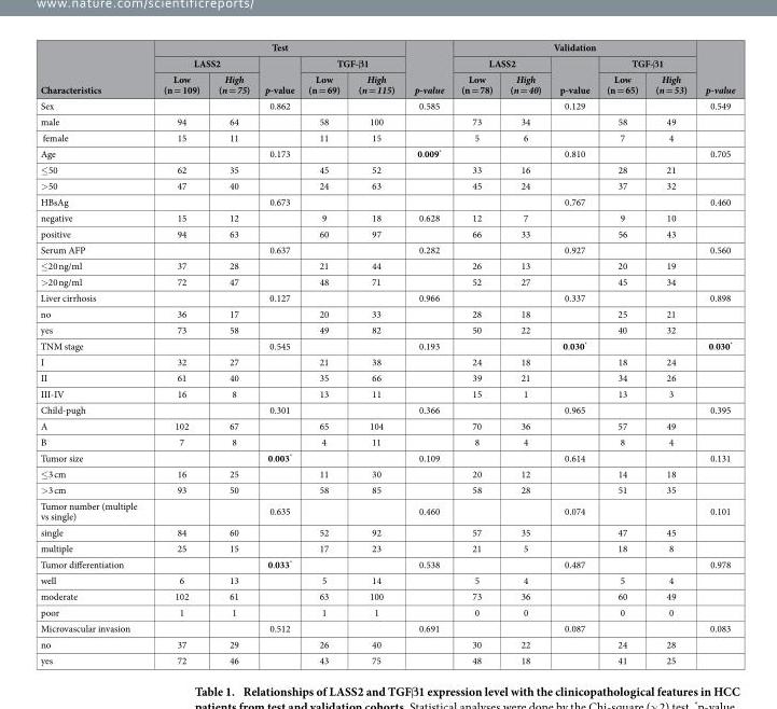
<table><thead><tr><td rowspan="3">Characteristics</td><td colspan="5">Test</td><td rowspan="3">p-value</td><td colspan="5">Validation</td><td rowspan="3">p-value</td></tr><tr><td colspan="2">LASS2</td><td rowspan="2">p-value</td><td colspan="2">TGF-β1</td><td colspan="2">LASS2</td><td rowspan="2">p-value</td><td colspan="2">TGF-β1</td></tr><tr><td>Low (n = 109)</td><td>High (n = 75)</td><td>Low (n = 69)</td><td>High (n = 115)</td><td>Low (n = 78)</td><td>High (n = 40)</td><td>Low (n = 65)</td><td>High (n = 53)</td></tr></thead><tbody><tr><td>Sex</td><td></td><td></td><td>0.862</td><td></td><td></td><td>0.585</td><td></td><td></td><td>0.129</td><td></td><td></td><td>0.549</td></tr><tr><td>male</td><td>94</td><td>64</td><td></td><td>58</td><td>100</td><td></td><td>73</td><td>34</td><td></td><td>58</td><td>49</td><td></td></tr><tr><td>female</td><td>15</td><td>11</td><td></td><td>11</td><td>15</td><td></td><td>5</td><td>6</td><td></td><td>7</td><td>4</td><td></td></tr><tr><td>Age</td><td></td><td></td><td>0.173</td><td></td><td></td><td>0.009*</td><td></td><td></td><td>0.810</td><td></td><td></td><td>0.705</td></tr><tr><td>≤ 50</td><td>62</td><td>35</td><td></td><td>45</td><td>52</td><td></td><td>33</td><td>16</td><td></td><td>28</td><td>21</td><td></td></tr><tr><td>&gt; 50</td><td>47</td><td>40</td><td></td><td>24</td><td>63</td><td></td><td>45</td><td>24</td><td></td><td>37</td><td>32</td><td></td></tr><tr><td>HBsAg</td><td></td><td></td><td>0.673</td><td></td><td></td><td></td><td></td><td></td><td>0.767</td><td></td><td></td><td>0.460</td></tr><tr><td>negative</td><td>15</td><td>12</td><td></td><td>9</td><td>18</td><td>0.628</td><td>12</td><td>7</td><td></td><td>9</td><td>10</td><td></td></tr><tr><td>positive</td><td>94</td><td>63</td><td></td><td>60</td><td>97</td><td></td><td>66</td><td>33</td><td></td><td>56</td><td>43</td><td></td></tr><tr><td>Serum AFP</td><td></td><td></td><td>0.637</td><td></td><td></td><td>0.282</td><td></td><td></td><td>0.927</td><td></td><td></td><td>0.560</td></tr><tr><td>≤ 20 ng/ml</td><td>37</td><td>28</td><td></td><td>21</td><td>44</td><td></td><td>26</td><td>13</td><td></td><td>20</td><td>19</td><td></td></tr><tr><td>&gt; 20 ng/ml</td><td>72</td><td>47</td><td></td><td>48</td><td>71</td><td></td><td>52</td><td>27</td><td></td><td>45</td><td>34</td><td></td></tr><tr><td>Liver cirrhosis</td><td></td><td></td><td>0.127</td><td></td><td></td><td>0.966</td><td></td><td></td><td>0.337</td><td></td><td></td><td>0.898</td></tr><tr><td>no</td><td>36</td><td>17</td><td></td><td>20</td><td>33</td><td></td><td>28</td><td>18</td><td></td><td>25</td><td>21</td><td></td></tr><tr><td>yes</td><td>73</td><td>58</td><td></td><td>49</td><td>82</td><td></td><td>50</td><td>22</td><td></td><td>40</td><td>32</td><td></td></tr><tr><td>TNM stage</td><td></td><td></td><td>0.545</td><td></td><td></td><td>0.193</td><td></td><td></td><td>0.030*</td><td></td><td></td><td>0.030*</td></tr><tr><td>I</td><td>32</td><td>27</td><td></td><td>21</td><td>38</td><td></td><td>24</td><td>18</td><td></td><td>18</td><td>24</td><td></td></tr><tr><td>II</td><td>61</td><td>40</td><td></td><td>35</td><td>66</td><td></td><td>39</td><td>21</td><td></td><td>34</td><td>26</td><td></td></tr><tr><td>III-IV</td><td>16</td><td>8</td><td></td><td>13</td><td>11</td><td></td><td>15</td><td>1</td><td></td><td>13</td><td>3</td><td></td></tr><tr><td>Child-pugh</td><td></td><td></td><td>0.301</td><td></td><td></td><td>0.366</td><td></td><td></td><td>0.965</td><td></td><td></td><td>0.395</td></tr><tr><td>A</td><td>102</td><td>67</td><td></td><td>65</td><td>104</td><td></td><td>70</td><td>36</td><td></td><td>57</td><td>49</td><td></td></tr><tr><td>B</td><td>7</td><td>8</td><td></td><td>4</td><td>11</td><td></td><td>8</td><td>4</td><td></td><td>8</td><td>4</td><td></td></tr><tr><td>Tumor size</td><td></td><td></td><td>0.003*</td><td></td><td></td><td>0.109</td><td></td><td></td><td>0.614</td><td></td><td></td><td>0.131</td></tr><tr><td>≤ 3 cm</td><td>16</td><td>25</td><td></td><td>11</td><td>30</td><td></td><td>20</td><td>12</td><td></td><td>14</td><td>18</td><td></td></tr><tr><td>&gt; 3 cm</td><td>93</td><td>50</td><td></td><td>58</td><td>85</td><td></td><td>58</td><td>28</td><td></td><td>51</td><td>35</td><td></td></tr><tr><td>Tumor number (multiple vs single)</td><td></td><td></td><td>0.635</td><td></td><td></td><td>0.460</td><td></td><td></td><td>0.074</td><td></td><td></td><td>0.101</td></tr><tr><td>single</td><td>84</td><td>60</td><td></td><td>52</td><td>92</td><td></td><td>57</td><td>35</td><td></td><td>47</td><td>45</td><td></td></tr><tr><td>multiple</td><td>25</td><td>15</td><td></td><td>17</td><td>23</td><td></td><td>21</td><td>5</td><td></td><td>18</td><td>8</td><td></td></tr><tr><td>Tumor differentiation</td><td></td><td></td><td>0.033*</td><td></td><td></td><td>0.538</td><td></td><td></td><td>0.487</td><td></td><td></td><td>0.978</td></tr><tr><td>well</td><td>6</td><td>13</td><td></td><td>5</td><td>14</td><td></td><td>5</td><td>4</td><td></td><td>5</td><td>4</td><td></td></tr><tr><td>moderate</td><td>102</td><td>61</td><td></td><td>63</td><td>100</td><td></td><td>73</td><td>36</td><td></td><td>60</td><td>49</td><td></td></tr><tr><td>poor</td><td>1</td><td>1</td><td></td><td>1</td><td>1</td><td></td><td>0</td><td>0</td><td></td><td>0</td><td>0</td><td></td></tr><tr><td>Microvascular invasion</td><td></td><td></td><td>0.512</td><td></td><td></td><td>0.691</td><td></td><td></td><td>0.087</td><td></td><td></td><td>0.083</td></tr><tr><td>no</td><td>37</td><td>29</td><td></td><td>26</td><td>40</td><td></td><td>30</td><td>22</td><td></td><td>24</td><td>28</td><td></td></tr><tr><td>yes</td><td>72</td><td>46</td><td></td><td>43</td><td>75</td><td></td><td>48</td><td>18</td><td></td><td>41</td><td>25</td><td></td></tr></tbody></table>